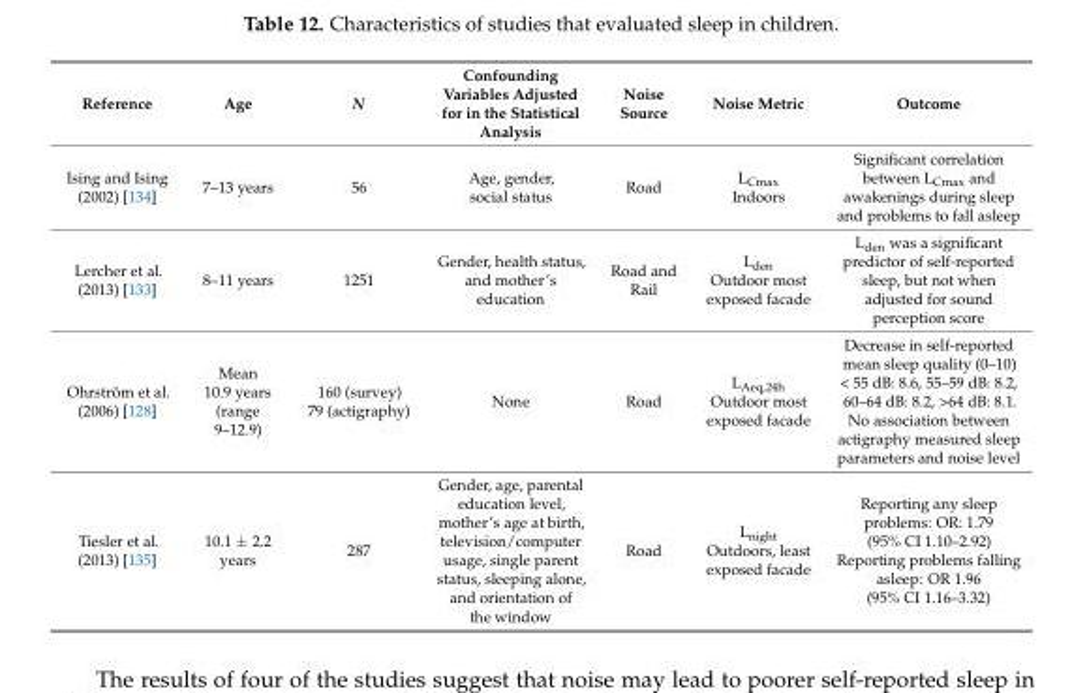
<table><thead><tr><td>Reference</td><td>Age</td><td>N</td><td>Confounding Variables Adjusted for in the Statistical Analysis</td><td>Noise Source</td><td>Noise Metric</td><td>Outcome</td></tr></thead><tbody><tr><td>Ising and Ising (2002) [134]</td><td>7–13 years</td><td>56</td><td>Age, gender, social status</td><td>Road</td><td>L<sub>Cmax</sub> Indoors</td><td>Significant correlation between L<sub>Cmax</sub> and awakenings during sleep and problems to fall asleep</td></tr><tr><td>Lercher et al. (2013) [133]</td><td>8–11 years</td><td>1251</td><td>Gender, health status, and mother’s education</td><td>Road and Rail</td><td>L<sub>den</sub> Outdoor most exposed facade</td><td>L<sub>den</sub> was a significant predictor of self-reported sleep, but not when adjusted for sound perception score</td></tr><tr><td>Ohrström et al. (2006) [128]</td><td>Mean 10.9 years (range 9–12.9)</td><td>160 (survey) 79 (actigraphy)</td><td>None</td><td>Road</td><td>L<sub>Aeq,24h</sub> Outdoor most exposed facade</td><td>Decrease in self-reported mean sleep quality (0–10) &lt; 55 dB: 8.6, 55–59 dB: 8.2, 60–64 dB: 8.2, &gt;64 dB: 8.1. No association between actigraphy measured sleep parameters and noise level</td></tr><tr><td>Tiesler et al. (2013) [135]</td><td>10.1 ± 2.2 years</td><td>287</td><td>Gender, age, parental education level, mother’s age at birth, television/computer usage, single parent status, sleeping alone, and orientation of the window</td><td>Road</td><td>L<sub>night</sub> Outdoors, least exposed facade</td><td>Reporting any sleep problems: OR: 1.79 (95% CI 1.10–2.92) Reporting problems falling asleep: OR 1.96 (95% CI 1.16–3.32)</td></tr></tbody></table>